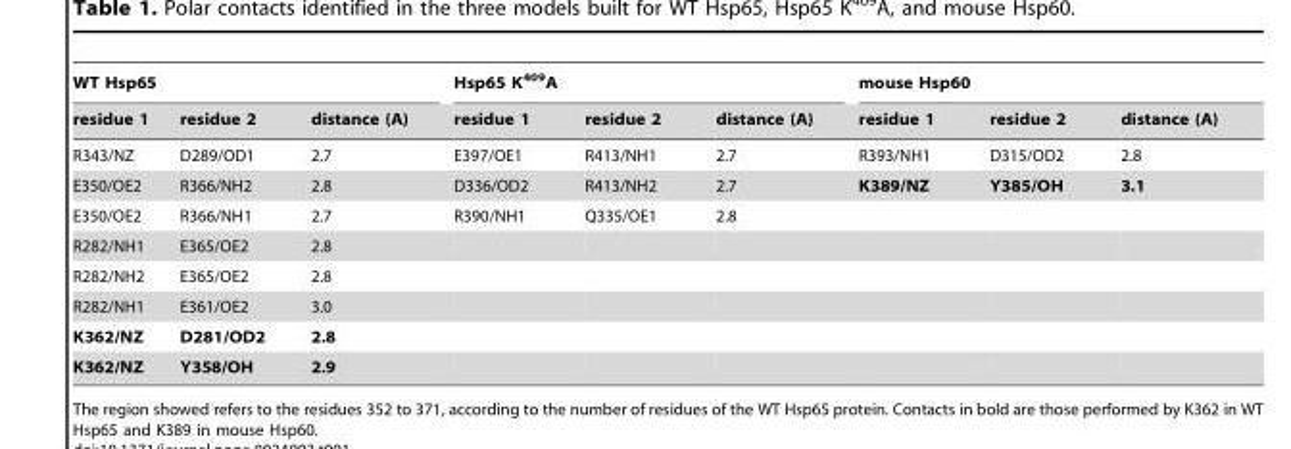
<table><thead><tr><td colspan="3">WT Hsp65</td><td colspan="3">Hsp65 K<sup>409</sup>A</td><td colspan="3">mouse Hsp60</td></tr><tr><td>residue 1</td><td>residue 2</td><td>distance (A)</td><td>residue 1</td><td>residue 2</td><td>distance (A)</td><td>residue 1</td><td>residue 2</td><td>distance (A)</td></tr></thead><tbody><tr><td>R343/NZ</td><td>D289/OD1</td><td>2.7</td><td>E397/OE1</td><td>R413/NH1</td><td>2.7</td><td>R393/NH1</td><td>D315/OD2</td><td>2.8</td></tr><tr><td>E350/OE2</td><td>R366/NH2</td><td>2.8</td><td>D336/OD2</td><td>R413/NH2</td><td>2.7</td><td>K389/NZ</td><td>Y385/OH</td><td>3.1</td></tr><tr><td>E350/OE2</td><td>R366/NH1</td><td>2.7</td><td>R390/NH1</td><td>Q335/OE1</td><td>2.8</td><td></td><td></td><td></td></tr><tr><td>R282/NH1</td><td>E365/OE2</td><td>2.8</td><td></td><td></td><td></td><td></td><td></td><td></td></tr><tr><td>R282/NH2</td><td>E365/OE2</td><td>2.8</td><td></td><td></td><td></td><td></td><td></td><td></td></tr><tr><td>R282/NH1</td><td>E361/OE2</td><td>3.0</td><td></td><td></td><td></td><td></td><td></td><td></td></tr><tr><td>K362/NZ</td><td>D281/OD2</td><td>2.8</td><td></td><td></td><td></td><td></td><td></td><td></td></tr><tr><td>K362/NZ</td><td>Y358/OH</td><td>2.9</td><td></td><td></td><td></td><td></td><td></td><td></td></tr></tbody></table>